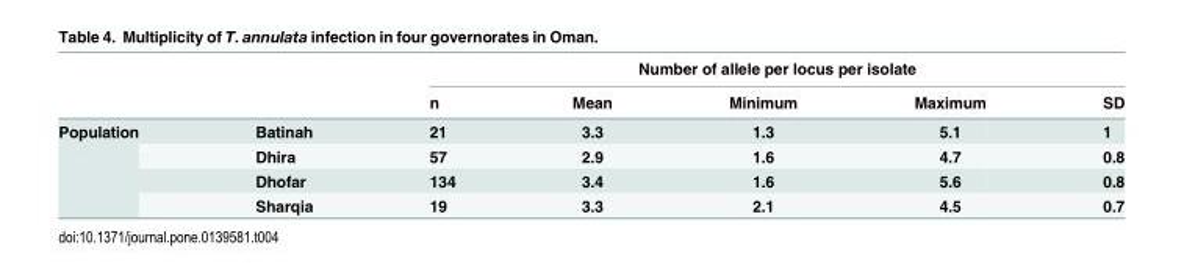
<table><thead><tr><td rowspan="2"></td><td rowspan="2"></td><td colspan="5">Number of allele per locus per isolate</td></tr><tr><td>n</td><td>Mean</td><td>Minimum</td><td>Maximum</td><td>SD</td></tr></thead><tbody><tr><td rowspan="4">Population</td><td>Batinah</td><td>21</td><td>3.3</td><td>1.3</td><td>5.1</td><td>1</td></tr><tr><td>Dhira</td><td>57</td><td>2.9</td><td>1.6</td><td>4.7</td><td>0.8</td></tr><tr><td>Dhofar</td><td>134</td><td>3.4</td><td>1.6</td><td>5.6</td><td>0.8</td></tr><tr><td>Sharqia</td><td>19</td><td>3.3</td><td>2.1</td><td>4.5</td><td>0.7</td></tr></tbody></table>